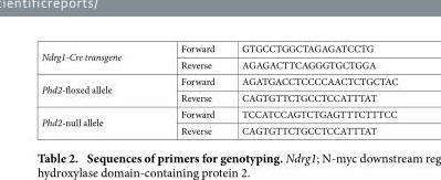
<table><tbody><tr><td rowspan="2">Ndrg1-Cre transgene</td><td>Forward</td><td>GTGCCTGGCTAGAGATCCTG</td></tr><tr><td>Reverse</td><td>AGAGACTTCAGGGTGCTGGA</td></tr><tr><td rowspan="2">Phd2-floxed allele</td><td>Forward</td><td>AGATGACCTCCCCAACTCTGCTAC</td></tr><tr><td>Reverse</td><td>CAGTGTTCTGCCTCCATTTAT</td></tr><tr><td rowspan="2">Phd2-null allele</td><td>Forward</td><td>TCCATCCAGTCTGAGTTTCTTTCC</td></tr><tr><td>Reverse</td><td>CAGTGTTCTGCCTCCATTTAT</td></tr></tbody></table>